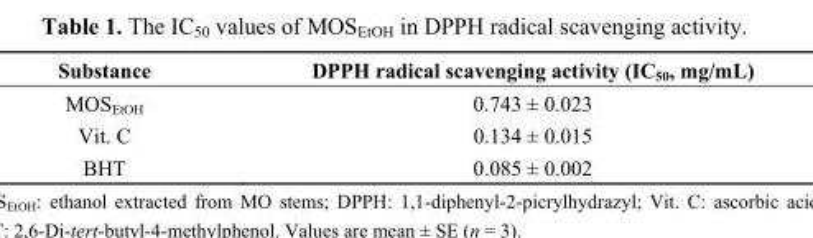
<table><thead><tr><td>Substance</td><td>DPPH radical scavenging activity (IC<sub>50</sub>, mg/mL)</td></tr></thead><tbody><tr><td>MOS<sub>EtOH</sub></td><td>0.743 ± 0.023</td></tr><tr><td>Vit. C</td><td>0.134 ± 0.015</td></tr><tr><td>BHT</td><td>0.085 ± 0.002</td></tr></tbody></table>